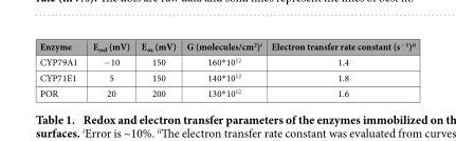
<table><thead><tr><td>Enzyme</td><td>E<sub>red</sub> (mV)</td><td>E<sub>ox</sub> (mV)</td><td>G (molecules/cm<sup>2</sup>)<sup>i</sup></td><td>Electron transfer rate constant (s<sup>−1</sup>)<sup>ii</sup></td></tr></thead><tbody><tr><td>CYP79A1</td><td>− 10</td><td>150</td><td>160* 10<sup>12</sup></td><td>1.4</td></tr><tr><td>CYP71E1</td><td>5</td><td>150</td><td>140* 10<sup>12</sup></td><td>1.8</td></tr><tr><td>POR</td><td>20</td><td>200</td><td>130* 10<sup>12</sup></td><td>1.6</td></tr></tbody></table>